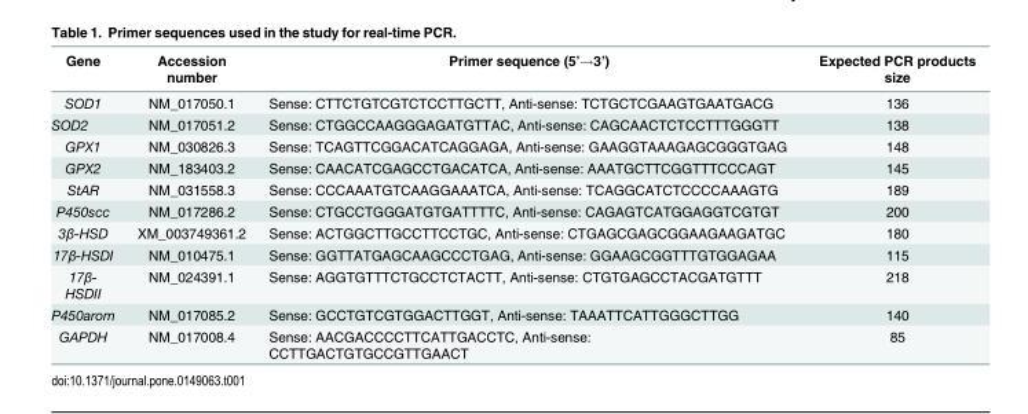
<table><thead><tr><td>Gene</td><td>Accession number</td><td>Primer sequence (5’→3’)</td><td>Expected PCR products size</td></tr></thead><tbody><tr><td>SOD1</td><td>NM_017050.1</td><td>Sense: CTTCTGTCGTCTCCTTGCTT, Anti-sense: TCTGCTCGAAGTGAATGACG</td><td>136</td></tr><tr><td>SOD2</td><td>NM_017051.2</td><td>Sense: CTGGCCAAGGGAGATGTTAC, Anti-sense: CAGCAACTCTCCTTTGGGTT</td><td>138</td></tr><tr><td>GPX1</td><td>NM_030826.3</td><td>Sense: TCAGTTCGGACATCAGGAGA, Anti-sense: GAAGGTAAAGAGCGGGTGAG</td><td>148</td></tr><tr><td>GPX2</td><td>NM_183403.2</td><td>Sense: CAACATCGAGCCTGACATCA, Anti-sense: AAATGCTTCGGTTTCCCAGT</td><td>145</td></tr><tr><td>StAR</td><td>NM_031558.3</td><td>Sense: CCCAAATGTCAAGGAAATCA, Anti-sense: TCAGGCATCTCCCCAAAGTG</td><td>189</td></tr><tr><td>P450scc</td><td>NM_017286.2</td><td>Sense: CTGCCTGGGATGTGATTTTC, Anti-sense: CAGAGTCATGGAGGTCGTGT</td><td>200</td></tr><tr><td>3β-HSD</td><td>XM_003749361.2</td><td>Sense: ACTGGCTTGCCTTCCTGC, Anti-sense: CTGAGCGAGCGGAAGAAGATGC</td><td>180</td></tr><tr><td>17β-HSDI</td><td>NM_010475.1</td><td>Sense: GGTTATGAGCAAGCCCTGAG, Anti-sense: GGAAGCGGTTTGTGGAGAA</td><td>115</td></tr><tr><td>17β- HSDII</td><td>NM_024391.1</td><td>Sense: AGGTGTTTCTGCCTCTACTT, Anti-sense: CTGTGAGCCTACGATGTTT</td><td>218</td></tr><tr><td>P450arom</td><td>NM_017085.2</td><td>Sense: GCCTGTCGTGGACTTGGT, Anti-sense: TAAATTCATTGGGCTTGG</td><td>140</td></tr><tr><td>GAPDH</td><td>NM_017008.4</td><td>Sense: AACGACCCCTTCATTGACCTC, Anti-sense: CCTTGACTGTGCCGTTGAACT</td><td>85</td></tr></tbody></table>